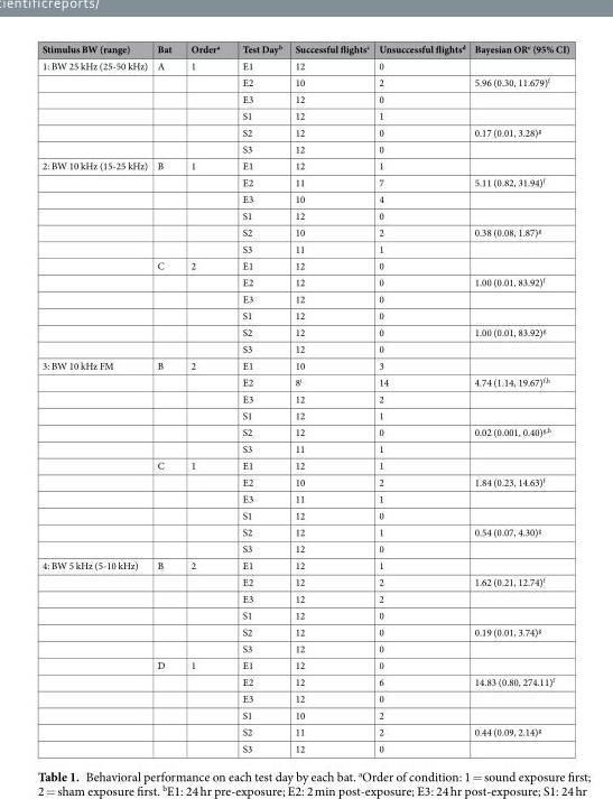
<table><thead><tr><td>Stimulus BW (range)</td><td>Bat</td><td>Order<sup>a</sup></td><td>Test Day<sup>b</sup></td><td>Successful flights<sup>c</sup></td><td>Unsuccessful flights<sup>d</sup></td><td>Bayesian OR<sup>e</sup> (95% CI)</td></tr></thead><tbody><tr><td rowspan="6">1: BW 25 kHz (25-50 kHz)</td><td>A</td><td>1</td><td>E1</td><td>12</td><td>0</td><td></td></tr><tr><td></td><td></td><td>E2</td><td>10</td><td>2</td><td>5.96 (0.30, 11.679)<sup>f</sup></td></tr><tr><td></td><td></td><td>E3</td><td>12</td><td>0</td><td></td></tr><tr><td></td><td></td><td>S1</td><td>12</td><td>1</td><td></td></tr><tr><td></td><td></td><td>S2</td><td>12</td><td>0</td><td>0.17 (0.01, 3.28)<sup>g</sup></td></tr><tr><td></td><td></td><td>S3</td><td>12</td><td>0</td><td></td></tr><tr><td rowspan="12">2: BW 10 kHz (15-25 kHz)</td><td>B</td><td>1</td><td>E1</td><td>12</td><td>1</td><td></td></tr><tr><td></td><td></td><td>E2</td><td>11</td><td>7</td><td>5.11 (0.82, 31.94)<sup>f</sup></td></tr><tr><td></td><td></td><td>E3</td><td>10</td><td>4</td><td></td></tr><tr><td></td><td></td><td>S1</td><td>12</td><td>0</td><td></td></tr><tr><td></td><td></td><td>S2</td><td>10</td><td>2</td><td>0.38 (0.08, 1.87)<sup>g</sup></td></tr><tr><td></td><td></td><td>S3</td><td>11</td><td>1</td><td></td></tr><tr><td>C</td><td>2</td><td>E1</td><td>12</td><td>0</td><td></td></tr><tr><td></td><td></td><td>E2</td><td>12</td><td>0</td><td>1.00 (0.01, 83.92)<sup>f</sup></td></tr><tr><td></td><td></td><td>E3</td><td>12</td><td>0</td><td></td></tr><tr><td></td><td></td><td>S1</td><td>12</td><td>0</td><td></td></tr><tr><td></td><td></td><td>S2</td><td>12</td><td>0</td><td>1.00 (0.01, 83.92)<sup>g</sup></td></tr><tr><td></td><td></td><td>S3</td><td>12</td><td>0</td><td></td></tr><tr><td rowspan="12">3: BW 10 kHz FM</td><td>B</td><td>2</td><td>E1</td><td>10</td><td>3</td><td></td></tr><tr><td></td><td></td><td>E2</td><td>8<sup>i</sup></td><td>14</td><td>4.74 (1.14, 19.67)<sup>f,h</sup></td></tr><tr><td></td><td></td><td>E3</td><td>12</td><td>2</td><td></td></tr><tr><td></td><td></td><td>S1</td><td>12</td><td>1</td><td></td></tr><tr><td></td><td></td><td>S2</td><td>12</td><td>0</td><td>0.02 (0.001, 0.40)<sup>g,h</sup></td></tr><tr><td></td><td></td><td>S3</td><td>11</td><td>1</td><td></td></tr><tr><td>C</td><td>1</td><td>E1</td><td>12</td><td>1</td><td></td></tr><tr><td></td><td></td><td>E2</td><td>10</td><td>2</td><td>1.84 (0.23, 14.63)<sup>f</sup></td></tr><tr><td></td><td></td><td>E3</td><td>11</td><td>1</td><td></td></tr><tr><td></td><td></td><td>S1</td><td>12</td><td>0</td><td></td></tr><tr><td></td><td></td><td>S2</td><td>12</td><td>1</td><td>0.54 (0.07, 4.30)<sup>g</sup></td></tr><tr><td></td><td></td><td>S3</td><td>12</td><td>0</td><td></td></tr><tr><td rowspan="12">4: BW 5 kHz (5-10 kHz)</td><td>B</td><td>2</td><td>E1</td><td>12</td><td>1</td><td></td></tr><tr><td></td><td></td><td>E2</td><td>12</td><td>2</td><td>1.62 (0.21, 12.74)<sup>f</sup></td></tr><tr><td></td><td></td><td>E3</td><td>12</td><td>2</td><td></td></tr><tr><td></td><td></td><td>S1</td><td>12</td><td>0</td><td></td></tr><tr><td></td><td></td><td>S2</td><td>12</td><td>0</td><td>0.19 (0.01, 3.74)<sup>g</sup></td></tr><tr><td></td><td></td><td>S3</td><td>12</td><td>0</td><td></td></tr><tr><td>D</td><td>1</td><td>E1</td><td>12</td><td>0</td><td></td></tr><tr><td></td><td></td><td>E2</td><td>12</td><td>6</td><td>14.83 (0.80, 274.11)<sup>f</sup></td></tr><tr><td></td><td></td><td>E3</td><td>12</td><td>0</td><td></td></tr><tr><td></td><td></td><td>S1</td><td>10</td><td>2</td><td></td></tr><tr><td></td><td></td><td>S2</td><td>11</td><td>2</td><td>0.44 (0.09, 2.14)<sup>g</sup></td></tr><tr><td></td><td></td><td>S3</td><td>12</td><td>0</td><td></td></tr></tbody></table>